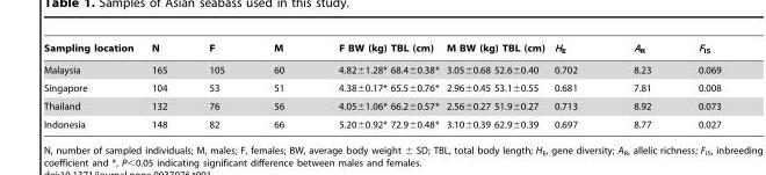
<table><thead><tr><td>Sampling location</td><td>N</td><td>F</td><td>M</td><td>F BW (kg) TBL (cm)</td><td>M BW (kg) TBL (cm)</td><td>H<sub>E</sub></td><td>A<sub>R</sub></td><td>F<sub>IS</sub></td></tr></thead><tbody><tr><td>Malaysia</td><td>165</td><td>105</td><td>60</td><td>4.82±1.28* 68.4±0.38*</td><td>3.05±0.68 52.6±0.40</td><td>0.702</td><td>8.23</td><td>0.069</td></tr><tr><td>Singapore</td><td>104</td><td>53</td><td>51</td><td>4.38±0.17* 65.5±0.76*</td><td>2.96±0.45 53.1±0.55</td><td>0.681</td><td>7.81</td><td>0.008</td></tr><tr><td>Thailand</td><td>132</td><td>76</td><td>56</td><td>4.05±1.06* 66.2±0.57*</td><td>2.56±0.27 51.9±0.27</td><td>0.713</td><td>8.92</td><td>0.073</td></tr><tr><td>Indonesia</td><td>148</td><td>82</td><td>66</td><td>5.20±0.92* 72.9±0.48*</td><td>3.10±0.39 62.9±0.39</td><td>0.697</td><td>8.77</td><td>0.027</td></tr></tbody></table>